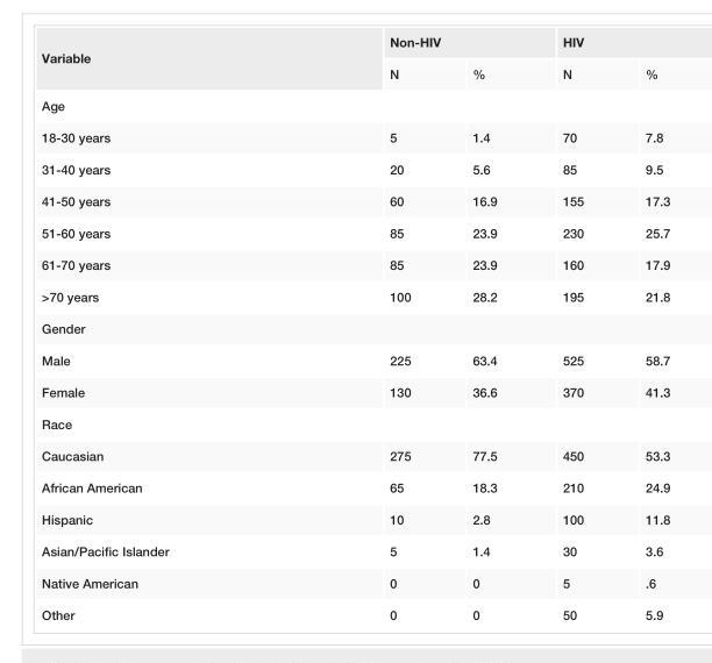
<table><tbody><tr><td rowspan="2">Variable</td><td colspan="2">Non-HIV</td><td colspan="2">HIV</td></tr><tr><td>N</td><td>%</td><td>N</td><td>%</td></tr><tr><td colspan="5">Age</td></tr><tr><td>18-30 years</td><td>5</td><td>1.4</td><td>70</td><td>7.8</td></tr><tr><td>31-40 years</td><td>20</td><td>5.6</td><td>85</td><td>9.5</td></tr><tr><td>41-50 years</td><td>60</td><td>16.9</td><td>155</td><td>17.3</td></tr><tr><td>51-60 years</td><td>85</td><td>23.9</td><td>230</td><td>25.7</td></tr><tr><td>61-70 years</td><td>85</td><td>23.9</td><td>160</td><td>17.9</td></tr><tr><td>&gt;70 years</td><td>100</td><td>28.2</td><td>195</td><td>21.8</td></tr><tr><td colspan="5">Gender</td></tr><tr><td>Male</td><td>225</td><td>63.4</td><td>525</td><td>58.7</td></tr><tr><td>Female</td><td>130</td><td>36.6</td><td>370</td><td>41.3</td></tr><tr><td colspan="5">Race</td></tr><tr><td>Caucasian</td><td>275</td><td>77.5</td><td>450</td><td>53.3</td></tr><tr><td>African American</td><td>65</td><td>18.3</td><td>210</td><td>24.9</td></tr><tr><td>Hispanic</td><td>10</td><td>2.8</td><td>100</td><td>11.8</td></tr><tr><td>Asian/Pacific Islander</td><td>5</td><td>1.4</td><td>30</td><td>3.6</td></tr><tr><td>Native American</td><td>0</td><td>0</td><td>5</td><td>.6</td></tr><tr><td>Other</td><td>0</td><td>0</td><td>50</td><td>5.9</td></tr></tbody></table>